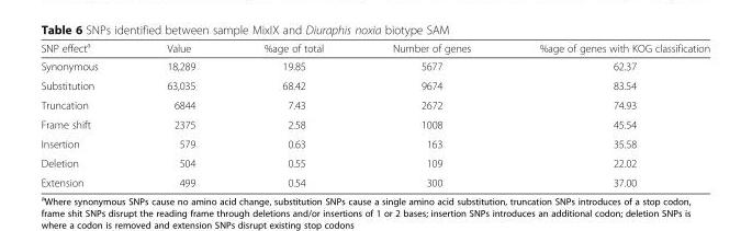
<table><thead><tr><td>SNP effect<sup>a</sup></td><td>Value</td><td>%age of total</td><td>Number of genes</td><td>%age of genes with KOG classification</td></tr></thead><tbody><tr><td>Synonymous</td><td>18,289</td><td>19.85</td><td>5677</td><td>62.37</td></tr><tr><td>Substitution</td><td>63,035</td><td>68.42</td><td>9674</td><td>83.54</td></tr><tr><td>Truncation</td><td>6844</td><td>7.43</td><td>2672</td><td>74.93</td></tr><tr><td>Frame shift</td><td>2375</td><td>2.58</td><td>1008</td><td>45.54</td></tr><tr><td>Insertion</td><td>579</td><td>0.63</td><td>163</td><td>35.58</td></tr><tr><td>Deletion</td><td>504</td><td>0.55</td><td>109</td><td>22.02</td></tr><tr><td>Extension</td><td>499</td><td>0.54</td><td>300</td><td>37.00</td></tr></tbody></table>